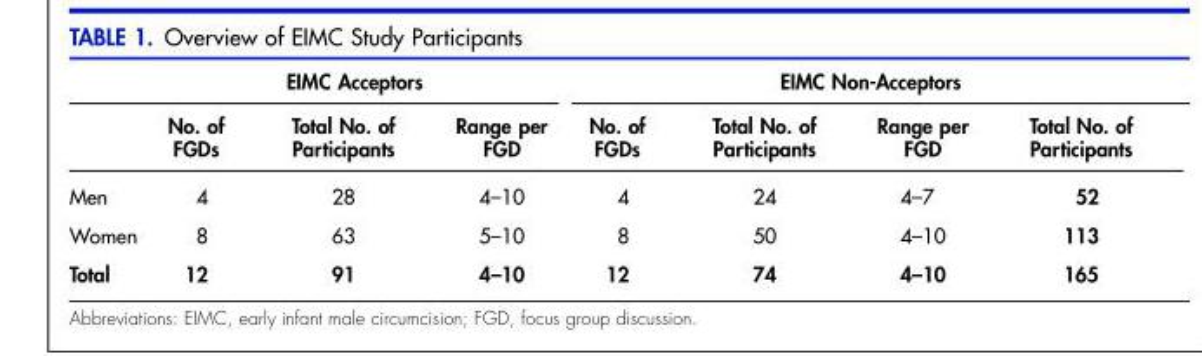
<table><thead><tr><td colspan="4">EIMC Acceptors</td><td colspan="4">EIMC Non-Acceptors</td></tr><tr><td></td><td>No. of FGDs</td><td>Total No. of Participants</td><td>Range per FGD</td><td>No. of FGDs</td><td>Total No. of Participants</td><td>Range per FGD</td><td>Total No. of Participants</td></tr></thead><tbody><tr><td>Men</td><td>4</td><td>28</td><td>4–10</td><td>4</td><td>24</td><td>4–7</td><td>52</td></tr><tr><td>Women</td><td>8</td><td>63</td><td>5–10</td><td>8</td><td>50</td><td>4–10</td><td>113</td></tr><tr><td>Total</td><td>12</td><td>91</td><td>4–10</td><td>12</td><td>74</td><td>4–10</td><td>165</td></tr></tbody></table>